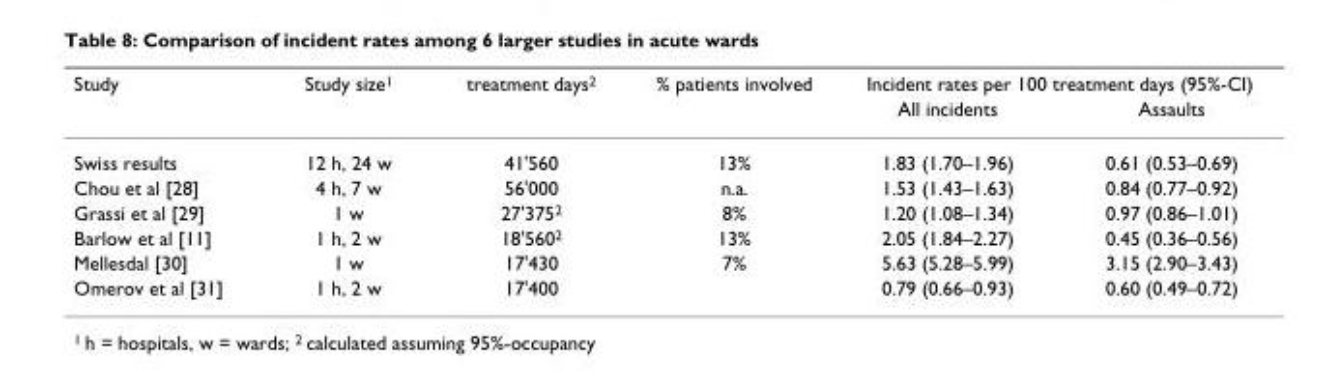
<table><thead><tr><td rowspan="2">Study</td><td rowspan="2">Study size<sup>1</sup></td><td rowspan="2">treatment days<sup>2</sup></td><td rowspan="2">% patients involved</td><td colspan="2">Incident rates per 100 treatment days (95%-CI)</td></tr><tr><td>All incidents</td><td>Assaults</td></tr></thead><tbody><tr><td>Swiss results</td><td>12 h, 24 w</td><td>41&#x27;560</td><td>13%</td><td>1.83 (1.70–1.96)</td><td>0.61 (0.53–0.69)</td></tr><tr><td>Chou et al [28]</td><td>4 h, 7 w</td><td>56&#x27;000</td><td>n.a.</td><td>1.53 (1.43–1.63)</td><td>0.84 (0.77–0.92)</td></tr><tr><td>Grassi et al [29]</td><td>1 w</td><td>27&#x27;375<sup>2</sup></td><td>8%</td><td>1.20 (1.08–1.34)</td><td>0.97 (0.86–1.01)</td></tr><tr><td>Barlow et al [11]</td><td>1 h, 2 w</td><td>18&#x27;560<sup>2</sup></td><td>13%</td><td>2.05 (1.84–2.27)</td><td>0.45 (0.36–0.56)</td></tr><tr><td>Mellesdal [30]</td><td>1 w</td><td>17&#x27;430</td><td>7%</td><td>5.63 (5.28–5.99)</td><td>3.15 (2.90–3.43)</td></tr><tr><td>Omerov et al [31]</td><td>1 h, 2 w</td><td>17&#x27;400</td><td></td><td>0.79 (0.66–0.93)</td><td>0.60 (0.49–0.72)</td></tr></tbody></table>